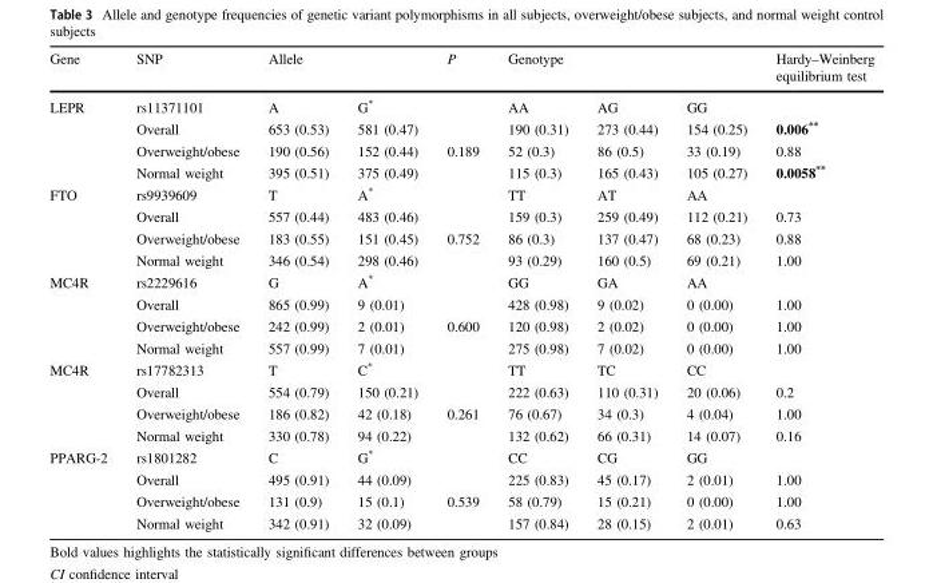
<table><thead><tr><td>Gene</td><td>SNP</td><td>Allele</td><td></td><td>P</td><td>Genotype</td><td></td><td></td><td>Hardy–Weinberg equilibrium test</td></tr></thead><tbody><tr><td rowspan="4">LEPR</td><td>rs11371101</td><td>A</td><td>G*</td><td></td><td>AA</td><td>AG</td><td>GG</td><td></td></tr><tr><td>Overall</td><td>653 (0.53)</td><td>581 (0.47)</td><td></td><td>190 (0.31)</td><td>273 (0.44)</td><td>154 (0.25)</td><td>0.006**</td></tr><tr><td>Overweight/obese</td><td>190 (0.56)</td><td>152 (0.44)</td><td>0.189</td><td>52 (0.3)</td><td>86 (0.5)</td><td>33 (0.19)</td><td>0.88</td></tr><tr><td>Normal weight</td><td>395 (0.51)</td><td>375 (0.49)</td><td></td><td>115 (0.3)</td><td>165 (0.43)</td><td>105 (0.27)</td><td>0.0058**</td></tr><tr><td rowspan="4">FTO</td><td>rs9939609</td><td>T</td><td>A*</td><td></td><td>TT</td><td>AT</td><td>AA</td><td></td></tr><tr><td>Overall</td><td>557 (0.44)</td><td>483 (0.46)</td><td></td><td>159 (0.3)</td><td>259 (0.49)</td><td>112 (0.21)</td><td>0.73</td></tr><tr><td>Overweight/obese</td><td>183 (0.55)</td><td>151 (0.45)</td><td>0.752</td><td>86 (0.3)</td><td>137 (0.47)</td><td>68 (0.23)</td><td>0.88</td></tr><tr><td>Normal weight</td><td>346 (0.54)</td><td>298 (0.46)</td><td></td><td>93 (0.29)</td><td>160 (0.5)</td><td>69 (0.21)</td><td>1.00</td></tr><tr><td rowspan="4">MC4R</td><td>rs2229616</td><td>G</td><td>A*</td><td></td><td>GG</td><td>GA</td><td>AA</td><td></td></tr><tr><td>Overall</td><td>865 (0.99)</td><td>9 (0.01)</td><td></td><td>428 (0.98)</td><td>9 (0.02)</td><td>0 (0.00)</td><td>1.00</td></tr><tr><td>Overweight/obese</td><td>242 (0.99)</td><td>2 (0.01)</td><td>0.600</td><td>120 (0.98)</td><td>2 (0.02)</td><td>0 (0.00)</td><td>1.00</td></tr><tr><td>Normal weight</td><td>557 (0.99)</td><td>7 (0.01)</td><td></td><td>275 (0.98)</td><td>7 (0.02)</td><td>0 (0.00)</td><td>1.00</td></tr><tr><td rowspan="4">MC4R</td><td>rs17782313</td><td>T</td><td>C*</td><td></td><td>TT</td><td>TC</td><td>CC</td><td></td></tr><tr><td>Overall</td><td>554 (0.79)</td><td>150 (0.21)</td><td></td><td>222 (0.63)</td><td>110 (0.31)</td><td>20 (0.06)</td><td>0.2</td></tr><tr><td>Overweight/obese</td><td>186 (0.82)</td><td>42 (0.18)</td><td>0.261</td><td>76 (0.67)</td><td>34 (0.3)</td><td>4 (0.04)</td><td>1.00</td></tr><tr><td>Normal weight</td><td>330 (0.78)</td><td>94 (0.22)</td><td></td><td>132 (0.62)</td><td>66 (0.31)</td><td>14 (0.07)</td><td>0.16</td></tr><tr><td rowspan="4">PPARG-2</td><td>rs1801282</td><td>C</td><td>G*</td><td></td><td>CC</td><td>CG</td><td>GG</td><td></td></tr><tr><td>Overall</td><td>495 (0.91)</td><td>44 (0.09)</td><td></td><td>225 (0.83)</td><td>45 (0.17)</td><td>2 (0.01)</td><td>1.00</td></tr><tr><td>Overweight/obese</td><td>131 (0.9)</td><td>15 (0.1)</td><td>0.539</td><td>58 (0.79)</td><td>15 (0.21)</td><td>0 (0.00)</td><td>1.00</td></tr><tr><td>Normal weight</td><td>342 (0.91)</td><td>32 (0.09)</td><td></td><td>157 (0.84)</td><td>28 (0.15)</td><td>2 (0.01)</td><td>0.63</td></tr></tbody></table>